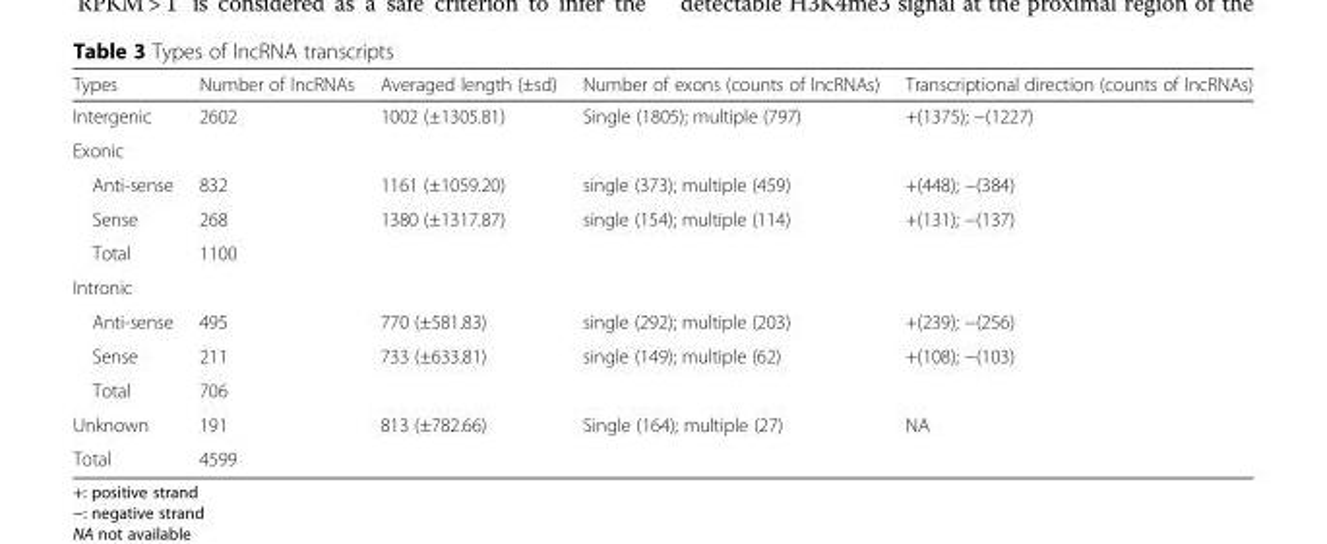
<table><thead><tr><td>Types</td><td>Number of lncRNAs</td><td>Averaged length (±sd)</td><td>Number of exons (counts of lncRNAs)</td><td>Transcriptional direction (counts of lncRNAs)</td></tr></thead><tbody><tr><td>Intergenic</td><td>2602</td><td>1002 (±1305.81)</td><td>Single (1805); multiple (797)</td><td>+(1375); −(1227)</td></tr><tr><td colspan="5">Exonic</td></tr><tr><td>Anti-sense</td><td>832</td><td>1161 (±1059.20)</td><td>single (373); multiple (459)</td><td>+(448); −(384)</td></tr><tr><td>Sense</td><td>268</td><td>1380 (±1317.87)</td><td>single (154); multiple (114)</td><td>+(131); −(137)</td></tr><tr><td>Total</td><td>1100</td><td></td><td></td><td></td></tr><tr><td colspan="5">Intronic</td></tr><tr><td>Anti-sense</td><td>495</td><td>770 (±581.83)</td><td>single (292); multiple (203)</td><td>+(239); −(256)</td></tr><tr><td>Sense</td><td>211</td><td>733 (±633.81)</td><td>single (149); multiple (62)</td><td>+(108); −(103)</td></tr><tr><td>Total</td><td>706</td><td></td><td></td><td></td></tr><tr><td>Unknown</td><td>191</td><td>813 (±782.66)</td><td>Single (164); multiple (27)</td><td>NA</td></tr><tr><td>Total</td><td>4599</td><td></td><td></td><td></td></tr></tbody></table>